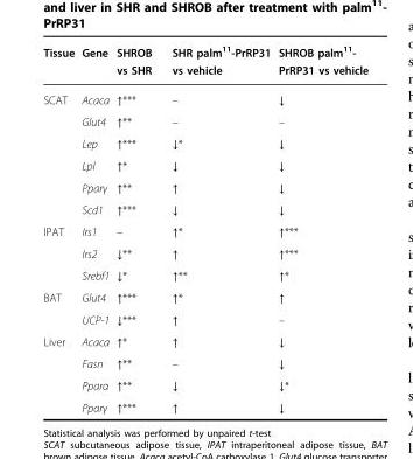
<table><thead><tr><td>Tissue</td><td>Gene</td><td>SHROB vs SHR</td><td>SHR palm<sup>11</sup>-PrRP31 vs vehicle</td><td>SHROB palm<sup>11</sup>- PrRP31 vs vehicle</td></tr></thead><tbody><tr><td rowspan="6">SCAT</td><td>Acaca</td><td>↑***</td><td>–</td><td>↓</td></tr><tr><td>Glut4</td><td>↑**</td><td>–</td><td>–</td></tr><tr><td>Lep</td><td>↑***</td><td>↓*</td><td>↓</td></tr><tr><td>Lpl</td><td>↑*</td><td>↓</td><td>↓</td></tr><tr><td>Pparγ</td><td>↑**</td><td>↑</td><td>↓</td></tr><tr><td>Scd1</td><td>↑***</td><td>↓</td><td>↓</td></tr><tr><td rowspan="3">IPAT</td><td>Irs1</td><td>–</td><td>↑*</td><td>↑***</td></tr><tr><td>Irs2</td><td>↓**</td><td>↑</td><td>↑***</td></tr><tr><td>Srebf1</td><td>↓*</td><td>↑**</td><td>↑*</td></tr><tr><td rowspan="2">BAT</td><td>Glut4</td><td>↑***</td><td>↑*</td><td>↑</td></tr><tr><td>UCP-1</td><td>↓***</td><td>↑</td><td>–</td></tr><tr><td rowspan="4">Liver</td><td>Acaca</td><td>↑*</td><td>↑</td><td>↓</td></tr><tr><td>Fasn</td><td>↑**</td><td>–</td><td>↓</td></tr><tr><td>Pparα</td><td>↑**</td><td>↓</td><td>↓*</td></tr><tr><td>Pparγ</td><td>↑***</td><td>↑</td><td>↓</td></tr></tbody></table>